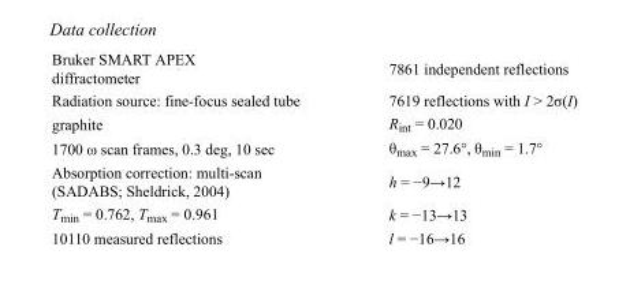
<table><tbody><tr><td>Bruker SMART APEX diffractometer</td><td>7861 independent reflections</td></tr><tr><td>Radiation source: fine-focus sealed tube</td><td>7619 reflections with I &gt; 2σ(I)</td></tr><tr><td>graphite</td><td>R<sub>int</sub> = 0.020</td></tr><tr><td>1700 ω scan frames, 0.3 deg, 10 sec</td><td>θ<sub>max</sub> = 27.6°, θ<sub>min</sub> = 1.7°</td></tr><tr><td>Absorption correction: multi-scan (SADABS; Sheldrick, 2004)</td><td>h = −9→12</td></tr><tr><td>T<sub>min</sub> = 0.762, T<sub>max</sub> = 0.961</td><td>k = −13→13</td></tr><tr><td>10110 measured reflections</td><td>l = −16→16</td></tr></tbody></table>